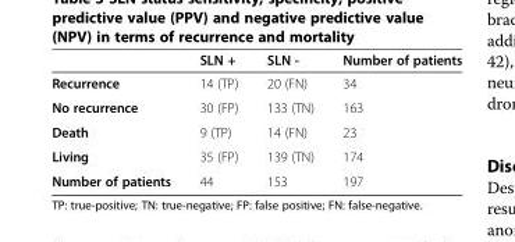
<table><thead><tr><td></td><td>SLN +</td><td>SLN -</td><td>Number of patients</td></tr></thead><tbody><tr><td>Recurrence</td><td>14 (TP)</td><td>20 (FN)</td><td>34</td></tr><tr><td>No recurrence</td><td>30 (FP)</td><td>133 (TN)</td><td>163</td></tr><tr><td>Death</td><td>9 (TP)</td><td>14 (FN)</td><td>23</td></tr><tr><td>Living</td><td>35 (FP)</td><td>139 (TN)</td><td>174</td></tr><tr><td>Number of patients</td><td>44</td><td>153</td><td>197</td></tr></tbody></table>